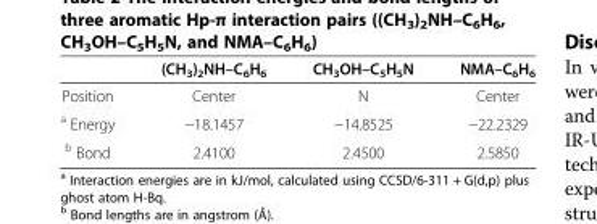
<table><thead><tr><td></td><td>(CH<sub>3</sub>)<sub>2</sub>NH–C<sub>6</sub>H<sub>6</sub></td><td>CH<sub>3</sub>OH–C<sub>5</sub>H<sub>5</sub>N</td><td>NMA–C<sub>6</sub>H<sub>6</sub></td></tr></thead><tbody><tr><td>Position</td><td>Center</td><td>N</td><td>Center</td></tr><tr><td><sup>a</sup> Energy</td><td>−18.1457</td><td>−14.8525</td><td>−22.2329</td></tr><tr><td><sup>b</sup> Bond</td><td>2.4100</td><td>2.4500</td><td>2.5850</td></tr></tbody></table>